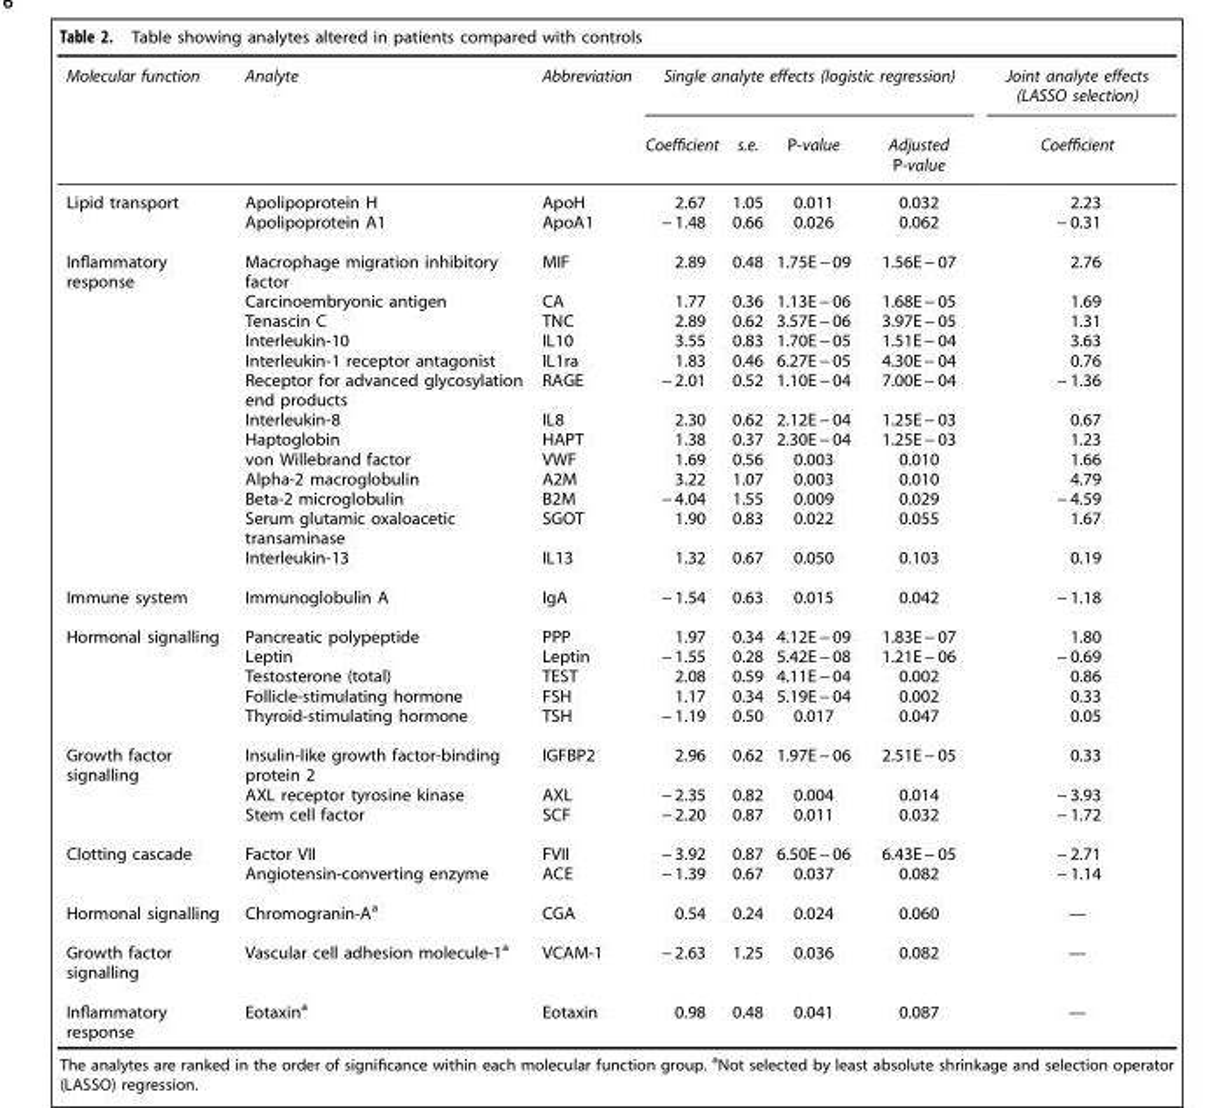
<table><thead><tr><td rowspan="2">Molecular function</td><td rowspan="2">Analyte</td><td rowspan="2">Abbreviation</td><td colspan="4">Single analyte effects (logistic regression)</td><td rowspan="2">Joint analyte effects (LASSO selection) Coefficient</td></tr><tr><td>Coefficient</td><td>s.e.</td><td>P-value</td><td>Adjusted P-value</td></tr></thead><tbody><tr><td rowspan="2">Lipid transport</td><td>Apolipoprotein H</td><td>ApoH</td><td>2.67</td><td>1.05</td><td>0.011</td><td>0.032</td><td>2.23</td></tr><tr><td>Apolipoprotein A1</td><td>ApoA1</td><td>− 1.48</td><td>0.66</td><td>0.026</td><td>0.062</td><td>− 0.31</td></tr><tr><td rowspan="13">Inflammatory response</td><td>Macrophage migration inhibitory factor</td><td>MIF</td><td>2.89</td><td>0.48</td><td>1.75E − 09</td><td>1.56E − 07</td><td>2.76</td></tr><tr><td>Carcinoembryonic antigen</td><td>CA</td><td>1.77</td><td>0.36</td><td>1.13E − 06</td><td>1.68E − 05</td><td>1.69</td></tr><tr><td>Tenascin C</td><td>TNC</td><td>2.89</td><td>0.62</td><td>3.57E − 06</td><td>3.97E − 05</td><td>1.31</td></tr><tr><td>Interleukin-10</td><td>IL10</td><td>3.55</td><td>0.83</td><td>1.70E − 05</td><td>1.51E − 04</td><td>3.63</td></tr><tr><td>Interleukin-1 receptor antagonist</td><td>IL1ra</td><td>1.83</td><td>0.46</td><td>6.27E − 05</td><td>4.30E − 04</td><td>0.76</td></tr><tr><td>Receptor for advanced glycosylation end products</td><td>RAGE</td><td>− 2.01</td><td>0.52</td><td>1.10E − 04</td><td>7.00E − 04</td><td>− 1.36</td></tr><tr><td>Interleukin-8</td><td>IL8</td><td>2.30</td><td>0.62</td><td>2.12E − 04</td><td>1.25E − 03</td><td>0.67</td></tr><tr><td>Haptoglobin</td><td>HAPT</td><td>1.38</td><td>0.37</td><td>2.30E − 04</td><td>1.25E − 03</td><td>1.23</td></tr><tr><td>von Willebrand factor</td><td>VWF</td><td>1.69</td><td>0.56</td><td>0.003</td><td>0.010</td><td>1.66</td></tr><tr><td>Alpha-2 macroglobulin</td><td>A2M</td><td>3.22</td><td>1.07</td><td>0.003</td><td>0.010</td><td>4.79</td></tr><tr><td>Beta-2 microglobulin</td><td>B2M</td><td>− 4.04</td><td>1.55</td><td>0.009</td><td>0.029</td><td>− 4.59</td></tr><tr><td>Serum glutamic oxaloacetic transaminase</td><td>SGOT</td><td>1.90</td><td>0.83</td><td>0.022</td><td>0.055</td><td>1.67</td></tr><tr><td>Interleukin-13</td><td>IL13</td><td>1.32</td><td>0.67</td><td>0.050</td><td>0.103</td><td>0.19</td></tr><tr><td>Immune system</td><td>Immunoglobulin A</td><td>IgA</td><td>− 1.54</td><td>0.63</td><td>0.015</td><td>0.042</td><td>− 1.18</td></tr><tr><td rowspan="5">Hormonal signalling</td><td>Pancreatic polypeptide</td><td>PPP</td><td>1.97</td><td>0.34</td><td>4.12E − 09</td><td>1.83E − 07</td><td>1.80</td></tr><tr><td>Leptin</td><td>Leptin</td><td>− 1.55</td><td>0.28</td><td>5.42E − 08</td><td>1.21E − 06</td><td>− 0.69</td></tr><tr><td>Testosterone (total)</td><td>TEST</td><td>2.08</td><td>0.59</td><td>4.11E − 04</td><td>0.002</td><td>0.86</td></tr><tr><td>Follicle-stimulating hormone</td><td>FSH</td><td>1.17</td><td>0.34</td><td>5.19E − 04</td><td>0.002</td><td>0.33</td></tr><tr><td>Thyroid-stimulating hormone</td><td>TSH</td><td>− 1.19</td><td>0.50</td><td>0.017</td><td>0.047</td><td>0.05</td></tr><tr><td rowspan="3">Growth factor signalling</td><td>Insulin-like growth factor-binding protein 2</td><td>IGFBP2</td><td>2.96</td><td>0.62</td><td>1.97E − 06</td><td>2.51E − 05</td><td>0.33</td></tr><tr><td>AXL receptor tyrosine kinase</td><td>AXL</td><td>− 2.35</td><td>0.82</td><td>0.004</td><td>0.014</td><td>− 3.93</td></tr><tr><td>Stem cell factor</td><td>SCF</td><td>− 2.20</td><td>0.87</td><td>0.011</td><td>0.032</td><td>− 1.72</td></tr><tr><td rowspan="2">Clotting cascade</td><td>Factor VII</td><td>FVII</td><td>− 3.92</td><td>0.87</td><td>6.50E − 06</td><td>6.43E − 05</td><td>− 2.71</td></tr><tr><td>Angiotensin-converting enzyme</td><td>ACE</td><td>− 1.39</td><td>0.67</td><td>0.037</td><td>0.082</td><td>− 1.14</td></tr><tr><td>Hormonal signalling</td><td>Chromogranin-A<sup>a</sup></td><td>CGA</td><td>0.54</td><td>0.24</td><td>0.024</td><td>0.060</td><td>—</td></tr><tr><td>Growth factor signalling</td><td>Vascular cell adhesion molecule-1<sup>a</sup></td><td>VCAM-1</td><td>− 2.63</td><td>1.25</td><td>0.036</td><td>0.082</td><td>—</td></tr><tr><td>Inflammatory response</td><td>Eotaxin<sup>a</sup></td><td>Eotaxin</td><td>0.98</td><td>0.48</td><td>0.041</td><td>0.087</td><td>—</td></tr></tbody></table>